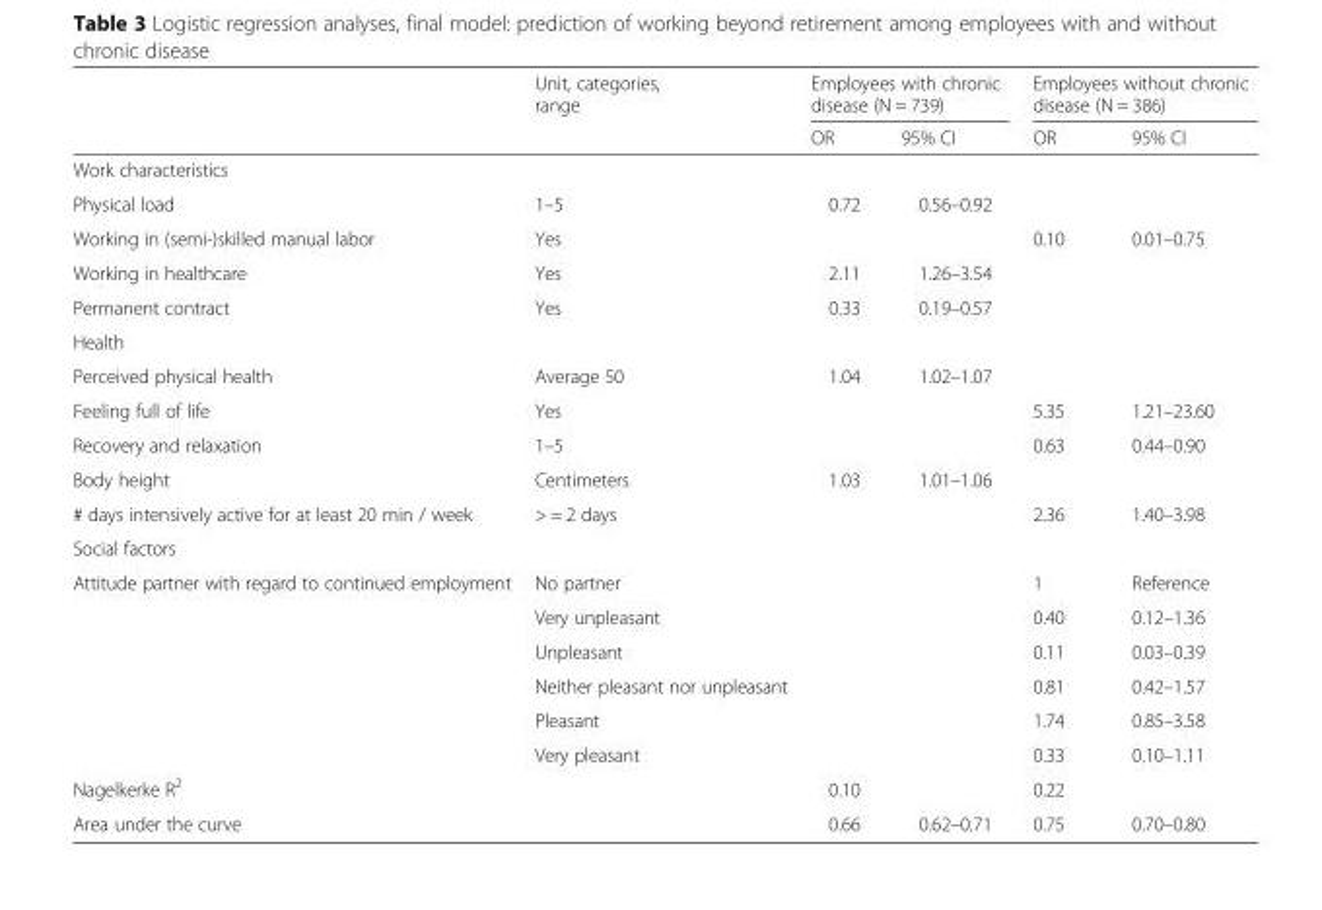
<table><thead><tr><td rowspan="2"></td><td rowspan="2">Unit, categories, range</td><td colspan="2">Employees with chronic disease (N = 739)</td><td colspan="2">Employees without chronic disease (N = 386)</td></tr><tr><td>OR</td><td>95% CI</td><td>OR</td><td>95% CI</td></tr></thead><tbody><tr><td colspan="6">Work characteristics</td></tr><tr><td>Physical load</td><td>1–5</td><td>0.72</td><td>0.56–0.92</td><td></td><td></td></tr><tr><td>Working in (semi-)skilled manual labor</td><td>Yes</td><td></td><td></td><td>0.10</td><td>0.01–0.75</td></tr><tr><td>Working in healthcare</td><td>Yes</td><td>2.11</td><td>1.26–3.54</td><td></td><td></td></tr><tr><td>Permanent contract</td><td>Yes</td><td>0.33</td><td>0.19–0.57</td><td></td><td></td></tr><tr><td colspan="6">Health</td></tr><tr><td>Perceived physical health</td><td>Average 50</td><td>1.04</td><td>1.02–1.07</td><td></td><td></td></tr><tr><td>Feeling full of life</td><td>Yes</td><td></td><td></td><td>5.35</td><td>1.21–23.60</td></tr><tr><td>Recovery and relaxation</td><td>1–5</td><td></td><td></td><td>0.63</td><td>0.44–0.90</td></tr><tr><td>Body height</td><td>Centimeters</td><td>1.03</td><td>1.01–1.06</td><td></td><td></td></tr><tr><td># days intensively active for at least 20 min / week</td><td>&gt; = 2 days</td><td></td><td></td><td>2.36</td><td>1.40–3.98</td></tr><tr><td colspan="6">Social factors</td></tr><tr><td rowspan="6">Attitude partner with regard to continued employment</td><td>No partner</td><td></td><td></td><td>1</td><td>Reference</td></tr><tr><td>Very unpleasant</td><td></td><td></td><td>0.40</td><td>0.12–1.36</td></tr><tr><td>Unpleasant</td><td></td><td></td><td>0.11</td><td>0.03–0.39</td></tr><tr><td>Neither pleasant nor unpleasant</td><td></td><td></td><td>0.81</td><td>0.42–1.57</td></tr><tr><td>Pleasant</td><td></td><td></td><td>1.74</td><td>0.85–3.58</td></tr><tr><td>Very pleasant</td><td></td><td></td><td>0.33</td><td>0.10–1.11</td></tr><tr><td>Nagelkerke R<sup>2</sup></td><td></td><td>0.10</td><td></td><td>0.22</td><td></td></tr><tr><td>Area under the curve</td><td></td><td>0.66</td><td>0.62–0.71</td><td>0.75</td><td>0.70–0.80</td></tr></tbody></table>